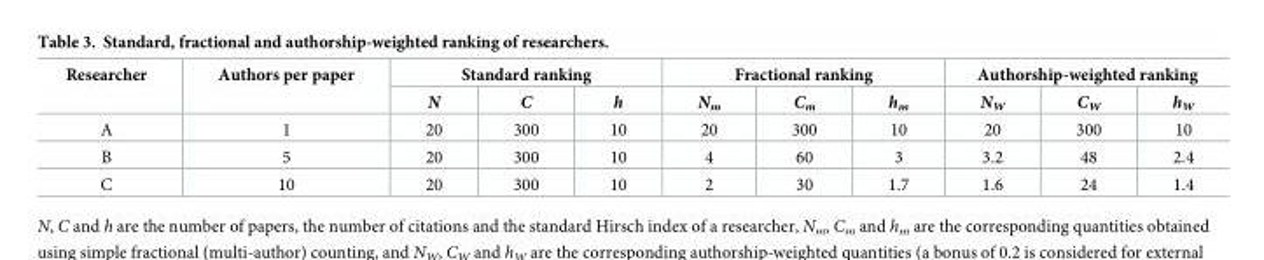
<table><thead><tr><td rowspan="2">Researcher</td><td rowspan="2">Authors per paper</td><td colspan="3">Standard ranking</td><td colspan="3">Fractional ranking</td><td colspan="3">Authorship-weighted ranking</td></tr><tr><td>N</td><td>C</td><td>h</td><td>N<sub>m</sub></td><td>C<sub>m</sub></td><td>h<sub>m</sub></td><td>N<sub>W</sub></td><td>C<sub>W</sub></td><td>h<sub>W</sub></td></tr></thead><tbody><tr><td>A</td><td>1</td><td>20</td><td>300</td><td>10</td><td>20</td><td>300</td><td>10</td><td>20</td><td>300</td><td>10</td></tr><tr><td>B</td><td>5</td><td>20</td><td>300</td><td>10</td><td>4</td><td>60</td><td>3</td><td>3.2</td><td>48</td><td>2.4</td></tr><tr><td>C</td><td>10</td><td>20</td><td>300</td><td>10</td><td>2</td><td>30</td><td>1.7</td><td>1.6</td><td>24</td><td>1.4</td></tr></tbody></table>